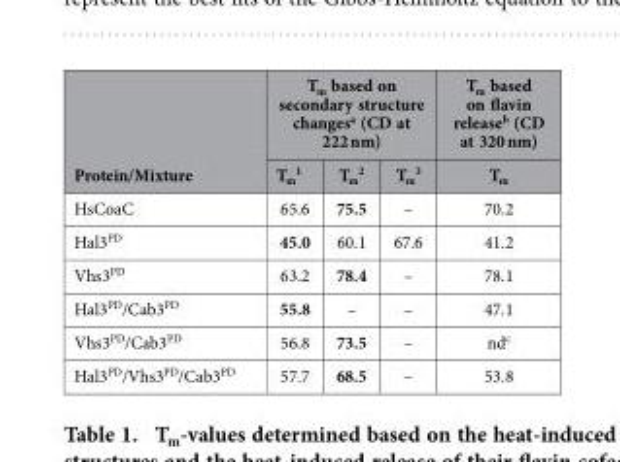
<table><thead><tr><td rowspan="2">Protein/Mixture</td><td colspan="3">T<sub>m</sub> based on secondary structure changes<sup>a</sup> (CD at 222 nm)</td><td rowspan="2">T<sub>m</sub> based on flavin release<sup>b</sup> (CD at 320 nm) T<sub>m</sub></td></tr><tr><td>T<sub>m</sub> <sup>1</sup></td><td>T<sub>m</sub> <sup>2</sup></td><td>T<sub>m</sub> <sup>3</sup></td></tr></thead><tbody><tr><td>HsCoaC</td><td>65.6</td><td>75.5</td><td>–</td><td>70.2</td></tr><tr><td>Hal3<sup>PD</sup></td><td>45.0</td><td>60.1</td><td>67.6</td><td>41.2</td></tr><tr><td>Vhs3<sup>PD</sup></td><td>63.2</td><td>78.4</td><td>–</td><td>78.1</td></tr><tr><td>Hal3<sup>PD</sup>/Cab3<sup>PD</sup></td><td>55.8</td><td>–</td><td>–</td><td>47.1</td></tr><tr><td>Vhs3<sup>PD</sup>/Cab3<sup>PD</sup></td><td>56.8</td><td>73.5</td><td>–</td><td>nd<sup>c</sup></td></tr><tr><td>Hal3<sup>PD</sup>/Vhs3<sup>PD</sup>/Cab3<sup>PD</sup></td><td>57.7</td><td>68.5</td><td>–</td><td>53.8</td></tr></tbody></table>